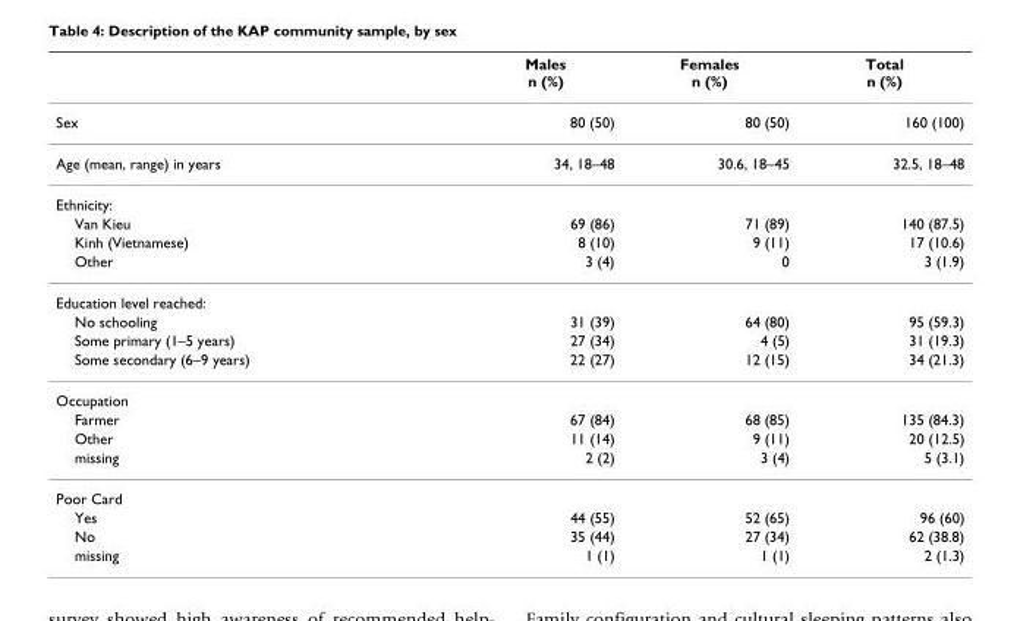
<table><thead><tr><td></td><td>Males n (%)</td><td>Females n (%)</td><td>Total n (%)</td></tr></thead><tbody><tr><td>Sex</td><td>80 (50)</td><td>80 (50)</td><td>160 (100)</td></tr><tr><td>Age (mean, range) in years</td><td>34, 18–48</td><td>30.6, 18–45</td><td>32.5, 18–48</td></tr><tr><td colspan="4">Ethnicity:</td></tr><tr><td>Van Kieu</td><td>69 (86)</td><td>71 (89)</td><td>140 (87.5)</td></tr><tr><td>Kinh (Vietnamese)</td><td>8 (10)</td><td>9 (11)</td><td>17 (10.6)</td></tr><tr><td>Other</td><td>3 (4)</td><td>0</td><td>3 (1.9)</td></tr><tr><td colspan="4">Education level reached:</td></tr><tr><td>No schooling</td><td>31 (39)</td><td>64 (80)</td><td>95 (59.3)</td></tr><tr><td>Some primary (1–5 years)</td><td>27 (34)</td><td>4 (5)</td><td>31 (19.3)</td></tr><tr><td>Some secondary (6–9 years)</td><td>22 (27)</td><td>12 (15)</td><td>34 (21.3)</td></tr><tr><td colspan="4">Occupation</td></tr><tr><td>Farmer</td><td>67 (84)</td><td>68 (85)</td><td>135 (84.3)</td></tr><tr><td>Other</td><td>11 (14)</td><td>9 (11)</td><td>20 (12.5)</td></tr><tr><td>missing</td><td>2 (2)</td><td>3 (4)</td><td>5 (3.1)</td></tr><tr><td colspan="4">Poor Card</td></tr><tr><td>Yes</td><td>44 (55)</td><td>52 (65)</td><td>96 (60)</td></tr><tr><td>No</td><td>35 (44)</td><td>27 (34)</td><td>62 (38.8)</td></tr><tr><td>missing</td><td>1 (1)</td><td>1 (1)</td><td>2 (1.3)</td></tr></tbody></table>